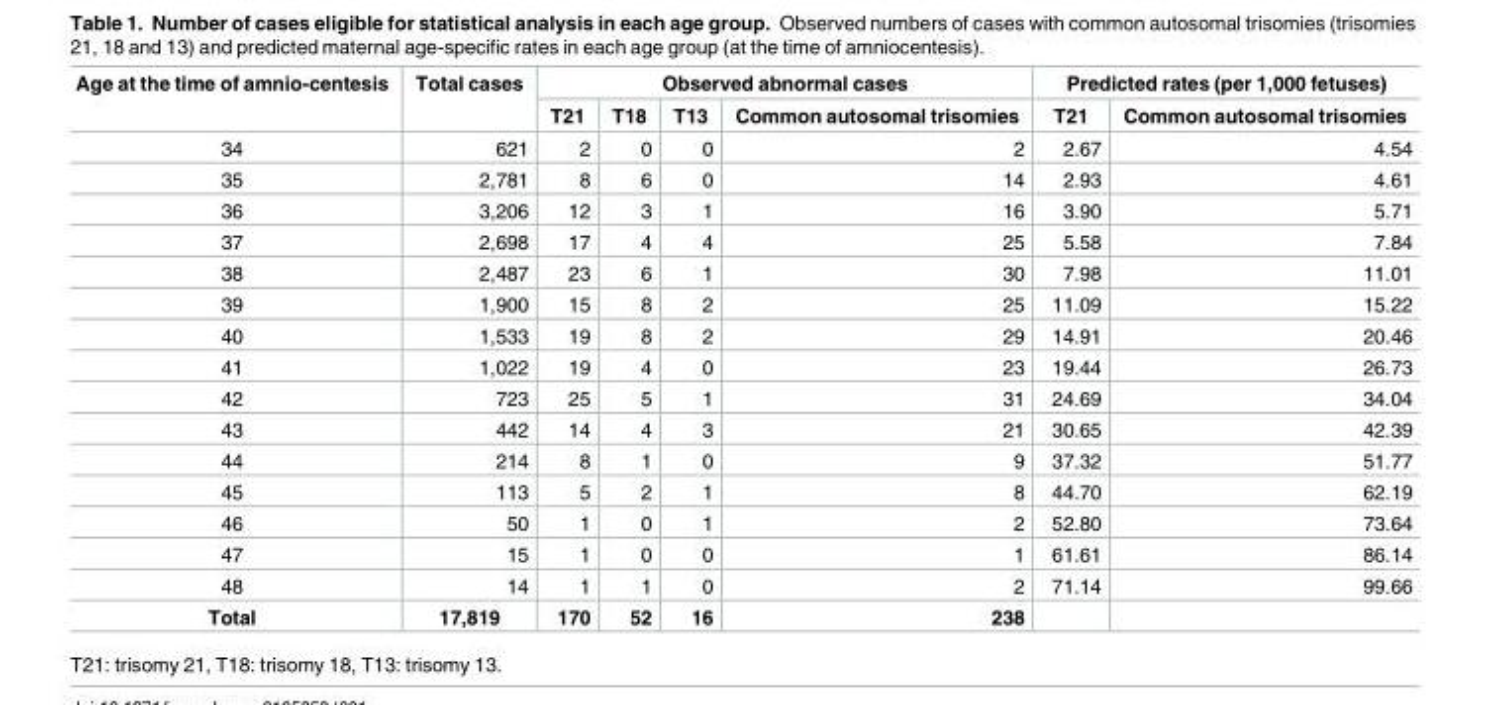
<table><thead><tr><td rowspan="2">Age at the time of amnio-centesis</td><td rowspan="2">Total cases</td><td colspan="4">Observed abnormal cases</td><td colspan="2">Predicted rates (per 1,000 fetuses)</td></tr><tr><td>T21</td><td>T18</td><td>T13</td><td>Common autosomal trisomies</td><td>T21</td><td>Common autosomal trisomies</td></tr></thead><tbody><tr><td>34</td><td>621</td><td>2</td><td>0</td><td>0</td><td>2</td><td>2.67</td><td>4.54</td></tr><tr><td>35</td><td>2,781</td><td>8</td><td>6</td><td>0</td><td>14</td><td>2.93</td><td>4.61</td></tr><tr><td>36</td><td>3,206</td><td>12</td><td>3</td><td>1</td><td>16</td><td>3.90</td><td>5.71</td></tr><tr><td>37</td><td>2,698</td><td>17</td><td>4</td><td>4</td><td>25</td><td>5.58</td><td>7.84</td></tr><tr><td>38</td><td>2,487</td><td>23</td><td>6</td><td>1</td><td>30</td><td>7.98</td><td>11.01</td></tr><tr><td>39</td><td>1,900</td><td>15</td><td>8</td><td>2</td><td>25</td><td>11.09</td><td>15.22</td></tr><tr><td>40</td><td>1,533</td><td>19</td><td>8</td><td>2</td><td>29</td><td>14.91</td><td>20.46</td></tr><tr><td>41</td><td>1,022</td><td>19</td><td>4</td><td>0</td><td>23</td><td>19.44</td><td>26.73</td></tr><tr><td>42</td><td>723</td><td>25</td><td>5</td><td>1</td><td>31</td><td>24.69</td><td>34.04</td></tr><tr><td>43</td><td>442</td><td>14</td><td>4</td><td>3</td><td>21</td><td>30.65</td><td>42.39</td></tr><tr><td>44</td><td>214</td><td>8</td><td>1</td><td>0</td><td>9</td><td>37.32</td><td>51.77</td></tr><tr><td>45</td><td>113</td><td>5</td><td>2</td><td>1</td><td>8</td><td>44.70</td><td>62.19</td></tr><tr><td>46</td><td>50</td><td>1</td><td>0</td><td>1</td><td>2</td><td>52.80</td><td>73.64</td></tr><tr><td>47</td><td>15</td><td>1</td><td>0</td><td>0</td><td>1</td><td>61.61</td><td>86.14</td></tr><tr><td>48</td><td>14</td><td>1</td><td>1</td><td>0</td><td>2</td><td>71.14</td><td>99.66</td></tr><tr><td>Total</td><td>17,819</td><td>170</td><td>52</td><td>16</td><td>238</td><td></td><td></td></tr></tbody></table>